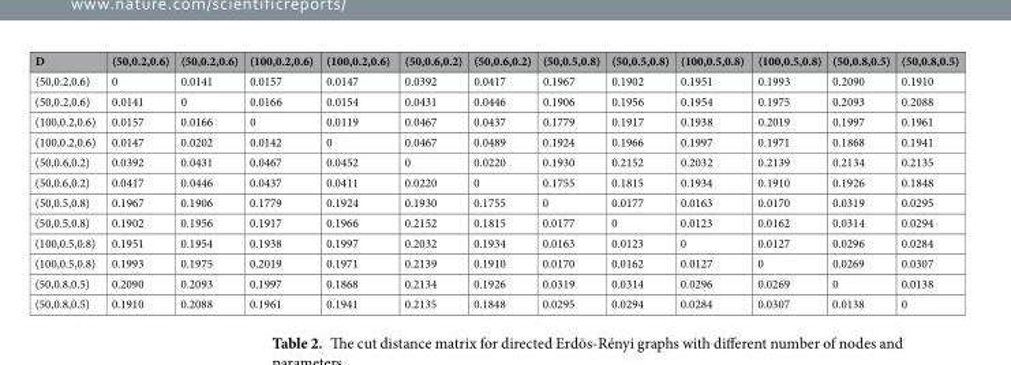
<table><thead><tr><td>D</td><td>(50,0.2,0.6)</td><td>(50,0.2,0.6)</td><td>(100,0.2,0.6)</td><td>(100,0.2,0.6)</td><td>(50,0.6,0.2)</td><td>(50,0.6,0.2)</td><td>(50,0.5,0.8)</td><td>(50,0.5,0.8)</td><td>(100,0.5,0.8)</td><td>(100,0.5,0.8)</td><td>(50,0.8,0.5)</td><td>(50,0.8,0.5)</td></tr></thead><tbody><tr><td>(50,0.2,0.6)</td><td>0</td><td>0.0141</td><td>0.0157</td><td>0.0147</td><td>0.0392</td><td>0.0417</td><td>0.1967</td><td>0.1902</td><td>0.1951</td><td>0.1993</td><td>0.2090</td><td>0.1910</td></tr><tr><td>(50,0.2,0.6)</td><td>0.0141</td><td>0</td><td>0.0166</td><td>0.0154</td><td>0.0431</td><td>0.0446</td><td>0.1906</td><td>0.1956</td><td>0.1954</td><td>0.1975</td><td>0.2093</td><td>0.2088</td></tr><tr><td>(100,0.2,0.6)</td><td>0.0157</td><td>0.0166</td><td>0</td><td>0.0119</td><td>0.0467</td><td>0.0437</td><td>0.1779</td><td>0.1917</td><td>0.1938</td><td>0.2019</td><td>0.1997</td><td>0.1961</td></tr><tr><td>(100,0.2,0.6)</td><td>0.0147</td><td>0.0202</td><td>0.0142</td><td>0</td><td>0.0467</td><td>0.0489</td><td>0.1924</td><td>0.1966</td><td>0.1997</td><td>0.1971</td><td>0.1868</td><td>0.1941</td></tr><tr><td>(50,0.6,0.2)</td><td>0.0392</td><td>0.0431</td><td>0.0467</td><td>0.0452</td><td>0</td><td>0.0220</td><td>0.1930</td><td>0.2152</td><td>0.2032</td><td>0.2139</td><td>0.2134</td><td>0.2135</td></tr><tr><td>(50,0.6,0.2)</td><td>0.0417</td><td>0.0446</td><td>0.0437</td><td>0.0411</td><td>0.0220</td><td>0</td><td>0.1755</td><td>0.1815</td><td>0.1934</td><td>0.1910</td><td>0.1926</td><td>0.1848</td></tr><tr><td>(50,0.5,0.8)</td><td>0.1967</td><td>0.1906</td><td>0.1779</td><td>0.1924</td><td>0.1930</td><td>0.1755</td><td>0</td><td>0.0177</td><td>0.0163</td><td>0.0170</td><td>0.0319</td><td>0.0295</td></tr><tr><td>(50,0.5,0.8)</td><td>0.1902</td><td>0.1956</td><td>0.1917</td><td>0.1966</td><td>0.2152</td><td>0.1815</td><td>0.0177</td><td>0</td><td>0.0123</td><td>0.0162</td><td>0.0314</td><td>0.0294</td></tr><tr><td>(100,0.5,0.8)</td><td>0.1951</td><td>0.1954</td><td>0.1938</td><td>0.1997</td><td>0.2032</td><td>0.1934</td><td>0.0163</td><td>0.0123</td><td>0</td><td>0.0127</td><td>0.0296</td><td>0.0284</td></tr><tr><td>(100,0.5,0.8)</td><td>0.1993</td><td>0.1975</td><td>0.2019</td><td>0.1971</td><td>0.2139</td><td>0.1910</td><td>0.0170</td><td>0.0162</td><td>0.0127</td><td>0</td><td>0.0269</td><td>0.0307</td></tr><tr><td>(50,0.8,0.5)</td><td>0.2090</td><td>0.2093</td><td>0.1997</td><td>0.1868</td><td>0.2134</td><td>0.1926</td><td>0.0319</td><td>0.0314</td><td>0.0296</td><td>0.0269</td><td>0</td><td>0.0138</td></tr><tr><td>(50,0.8,0.5)</td><td>0.1910</td><td>0.2088</td><td>0.1961</td><td>0.1941</td><td>0.2135</td><td>0.1848</td><td>0.0295</td><td>0.0294</td><td>0.0284</td><td>0.0307</td><td>0.0138</td><td>0</td></tr></tbody></table>